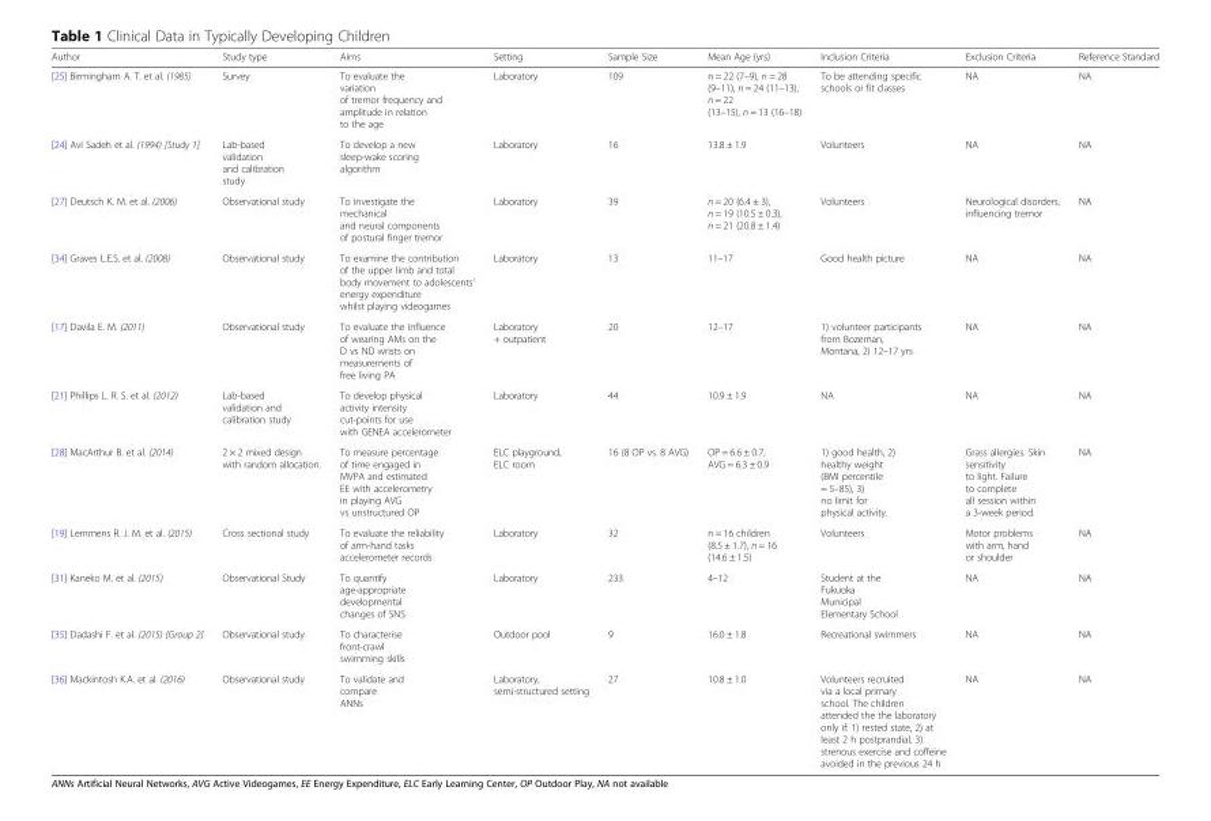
<table><thead><tr><td>Author</td><td>Study type</td><td>Aims</td><td>Setting</td><td>Sample Size</td><td>Mean Age (yrs)</td><td>Inclusion Criteria</td><td>Exclusion Criteria</td><td>Reference Standard</td></tr></thead><tbody><tr><td>[25] Birmingham A. T. et al. (1985)</td><td>Survey</td><td>To evaluate the variation of tremor frequency and amplitude in relation to the age</td><td>Laboratory</td><td>109</td><td>n = 22 (7–9), n = 28 (9–11), n = 24 (11–13), n = 22 (13–15), n = 13 (16–18)</td><td>To be attending specific schools or fit classes</td><td>NA</td><td>NA</td></tr><tr><td>[24] Avi Sadeh et al. (1994) [Study 1]</td><td>Lab-based validation and calibration study</td><td>To develop a new sleep-wake scoring algorithm</td><td>Laboratory</td><td>16</td><td>13.8 ± 1.9</td><td>Volunteers</td><td>NA</td><td>NA</td></tr><tr><td>[27] Deutsch K. M. et al. (2006)</td><td>Observational study</td><td>To investigate the mechanical and neural components of postural finger tremor</td><td>Laboratory</td><td>39</td><td>n = 20 (6.4 ± 3), n = 19 (10.5 ± 0.3), n = 21 (20.8 ± 1.4)</td><td>Volunteers</td><td>Neurological disorders, influencing tremor</td><td>NA</td></tr><tr><td>[34] Graves L.E.S. et al. (2008)</td><td>Observational study</td><td>To examine the contribution of the upper limb and total body movement to adolescents’ energy expenditure whilst playing videogames</td><td>Laboratory</td><td>13</td><td>11–17</td><td>Good health picture</td><td>NA</td><td>NA</td></tr><tr><td>[17] Davila E. M. (2011)</td><td>Observational study</td><td>To evaluate the influence of wearing AMs on the D vs ND wrists on measurements of free living PA</td><td>Laboratory + outpatient</td><td>20</td><td>12–17</td><td>1) volunteer participants from Bozeman, Montana, 2) 12–17 yrs</td><td>NA</td><td>NA</td></tr><tr><td>[21] Phillips L. R. S. et al. (2012)</td><td>Lab-based validation and calibration study</td><td>To develop physical activity intensity cut-points for use with GENEA accelerometer</td><td>Laboratory</td><td>44</td><td>10.9 ± 1.9</td><td>NA</td><td>NA</td><td>NA</td></tr><tr><td>[28] MacArthur B. et al. (2014)</td><td>2 × 2 mixed design with random allocation.</td><td>To measure percentage of time engaged in MVPA and estimated EE with accelerometry in playing AVG vs unstructured OP</td><td>ELC playground, ELC room</td><td>16 (8 OP vs. 8 AVG)</td><td>OP = 6.6 ± 0.7, AVG = 6.3 ± 0.9</td><td>1) good health, 2) healthy weight (BMI percentile = 5–85), 3) no limit for physical activity.</td><td>Grass allergies. Skin sensitivity to light. Failure to complete all session within a 3-week period.</td><td>NA</td></tr><tr><td>[19] Lemmens R. J. M. et al. (2015)</td><td>Cross sectional study</td><td>To evaluate the reliability of arm-hand tasks accelerometer records</td><td>Laboratory</td><td>32</td><td>n = 16 children (8.5 ± 1.7), n = 16 (14.6 ± 1.5)</td><td>Volunteers</td><td>Motor problems with arm, hand or shoulder</td><td>NA</td></tr><tr><td>[31] Kaneko M. et al. (2015)</td><td>Observational Study</td><td>To quantify age-appropriate developmental changes of SNS</td><td>Laboratory</td><td>233</td><td>4–12</td><td>Student at the Fukuoka Municipal Elementary School</td><td>NA</td><td>NA</td></tr><tr><td>[35] Dadashi F. et al. (2015) [Group 2]</td><td>Observational study</td><td>To characterise front-crawl swimming skills</td><td>Outdoor pool</td><td>9</td><td>16.0 ± 1.8</td><td>Recreational swimmers</td><td>NA</td><td>NA</td></tr><tr><td>[36] Mackintosh K.A. et al. (2016)</td><td>Observational study</td><td>To validate and compare ANNs</td><td>Laboratory, semi-structured setting</td><td>27</td><td>10.8 ± 1.0</td><td>Volunteers recruited via a local primary school. The children attended the the laboratory only if: 1) rested state, 2) at least 2 h postprandial, 3) strenous exercise and coffeine avoided in the previous 24 h</td><td>NA</td><td>NA</td></tr></tbody></table>